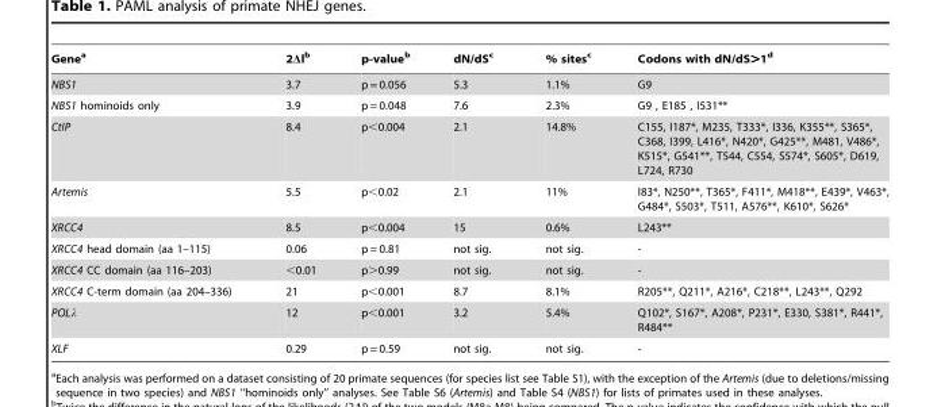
<table><thead><tr><td>Gene<sup>a</sup></td><td>2Δl<sup>b</sup></td><td>p-value<sup>b</sup></td><td>dN/dS<sup>c</sup></td><td>% sites<sup>c</sup></td><td>Codons with dN/dS&gt;1<sup>d</sup></td></tr></thead><tbody><tr><td>NBS1</td><td>3.7</td><td>p = 0.056</td><td>5.3</td><td>1.1%</td><td>G9</td></tr><tr><td>NBS1 hominoids only</td><td>3.9</td><td>p = 0.048</td><td>7.6</td><td>2.3%</td><td>G9 , E185 , I531**</td></tr><tr><td>CtIP</td><td>8.4</td><td>p&lt;0.004</td><td>2.1</td><td>14.8%</td><td>C155, I187*, M235, T333*, I336, K355**, S365*, C368, I399, L416*, N420*, G425**, M481, V486*, K515*, G541**, T544, C554, S574*, S605*, D619, L724, R730</td></tr><tr><td>Artemis</td><td>5.5</td><td>p&lt;0.02</td><td>2.1</td><td>11%</td><td>I83*, N250**, T365*, F411*, M418**, E439*, V463*, G484*, S503*, T511, A576**, K610*, S626*</td></tr><tr><td>XRCC4</td><td>8.5</td><td>p&lt;0.004</td><td>15</td><td>0.6%</td><td>L243**</td></tr><tr><td>XRCC4 head domain (aa 1–115)</td><td>0.06</td><td>p = 0.81</td><td>not sig.</td><td>not sig.</td><td>-</td></tr><tr><td>XRCC4 CC domain (aa 116–203)</td><td>&lt;0.01</td><td>p&gt;0.99</td><td>not sig.</td><td>not sig.</td><td>-</td></tr><tr><td>XRCC4 C-term domain (aa 204–336)</td><td>21</td><td>p&lt;0.001</td><td>8.7</td><td>8.1%</td><td>R205**, Q211*, A216*, C218**, L243**, Q292</td></tr><tr><td>POLλ</td><td>12</td><td>p&lt;0.001</td><td>3.2</td><td>5.4%</td><td>Q102*, S167*, A208*, P231*, E330, S381*, R441*, R484**</td></tr><tr><td>XLF</td><td>0.29</td><td>p = 0.59</td><td>not sig.</td><td>not sig.</td><td>-</td></tr></tbody></table>